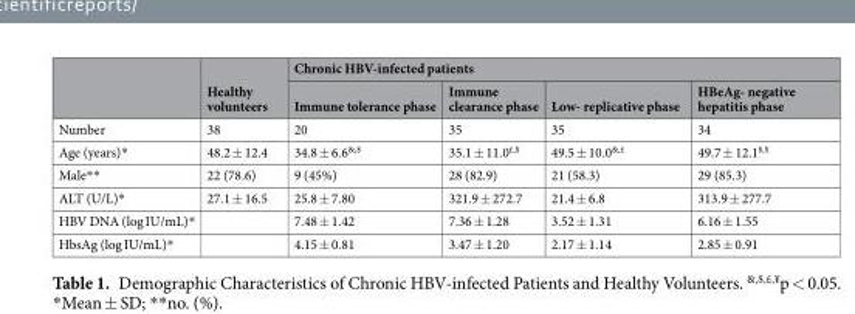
<table><thead><tr><td rowspan="2"></td><td rowspan="2">Healthy volunteers</td><td colspan="4">Chronic HBV-infected patients</td></tr><tr><td>Immune tolerance phase</td><td>Immune clearance phase</td><td>Low- replicative phase</td><td>HBeAg- negative hepatitis phase</td></tr></thead><tbody><tr><td>Number</td><td>38</td><td>20</td><td>35</td><td>35</td><td>34</td></tr><tr><td>Age (years)*</td><td>48.2 ± 12.4</td><td>34.8 ± 6.6<sup>&amp;,$</sup></td><td>35.1 ± 11.0<sup>£,¥</sup></td><td>49.5 ± 10.0<sup>&amp;,£</sup></td><td>49.7 ± 12.1<sup>$,¥</sup></td></tr><tr><td>Male**</td><td>22 (78.6)</td><td>9 (45%)</td><td>28 (82.9)</td><td>21 (58.3)</td><td>29 (85.3)</td></tr><tr><td>ALT (U/L)*</td><td>27.1 ± 16.5</td><td>25.8 ± 7.80</td><td>321.9 ± 272.7</td><td>21.4 ± 6.8</td><td>313.9 ± 277.7</td></tr><tr><td>HBV DNA (log IU/mL)*</td><td></td><td>7.48 ± 1.42</td><td>7.36 ± 1.28</td><td>3.52 ± 1.31</td><td>6.16 ± 1.55</td></tr><tr><td>HbsAg (log IU/mL)*</td><td></td><td>4.15 ± 0.81</td><td>3.47 ± 1.20</td><td>2.17 ± 1.14</td><td>2.85 ± 0.91</td></tr></tbody></table>